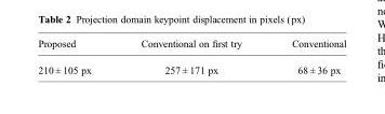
<table><thead><tr><td>Proposed</td><td>Conventional on first try</td><td>Conventional</td></tr></thead><tbody><tr><td>210 ± 105 px</td><td>257 ± 171 px</td><td>68 ± 36 px</td></tr></tbody></table>